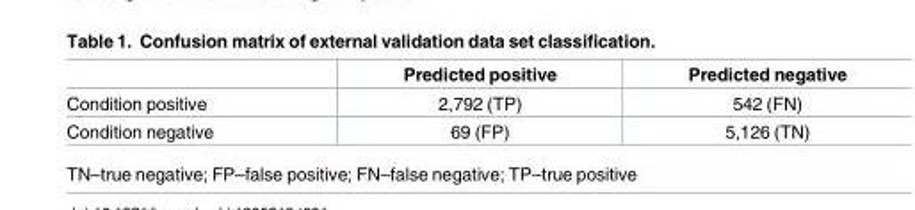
<table><thead><tr><td></td><td>Predicted positive</td><td>Predicted negative</td></tr></thead><tbody><tr><td>Condition positive</td><td>2,792 (TP)</td><td>542 (FN)</td></tr><tr><td>Condition negative</td><td>69 (FP)</td><td>5,126 (TN)</td></tr></tbody></table>